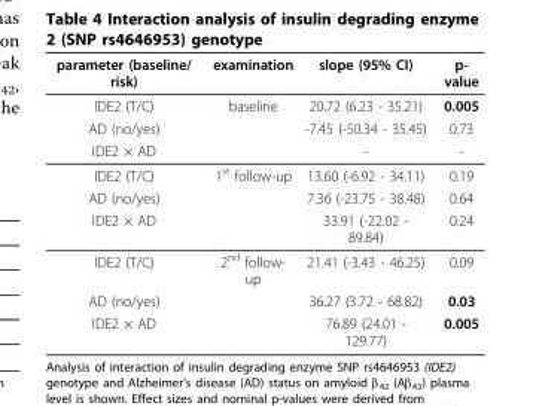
<table><thead><tr><td>parameter (baseline/ risk)</td><td>examination</td><td>slope (95% CI)</td><td>p- value</td></tr></thead><tbody><tr><td>IDE2 (T/C)</td><td>baseline</td><td>20.72 (6.23 - 35.21)</td><td>0.005</td></tr><tr><td>AD (no/yes)</td><td></td><td>-7.45 (-50.34 - 35.45)</td><td>0.73</td></tr><tr><td>IDE2 × AD</td><td></td><td>-</td><td>-</td></tr><tr><td>IDE2 (T/C)</td><td>1<sup>st</sup> follow-up</td><td>13.60 (-6.92 - 34.11)</td><td>0.19</td></tr><tr><td>AD (no/yes)</td><td></td><td>7.36 (-23.75 - 38.48)</td><td>0.64</td></tr><tr><td>IDE2 × AD</td><td></td><td>33.91 (-22.02 - 89.84)</td><td>0.24</td></tr><tr><td>IDE2 (T/C)</td><td>2<sup>nd</sup> follow- up</td><td>21.41 (-3.43 - 46.25)</td><td>0.09</td></tr><tr><td>AD (no/yes)</td><td></td><td>36.27 (3.72 - 68.82)</td><td>0.03</td></tr><tr><td>IDE2 × AD</td><td></td><td>76.89 (24.01 - 129.77)</td><td>0.005</td></tr></tbody></table>